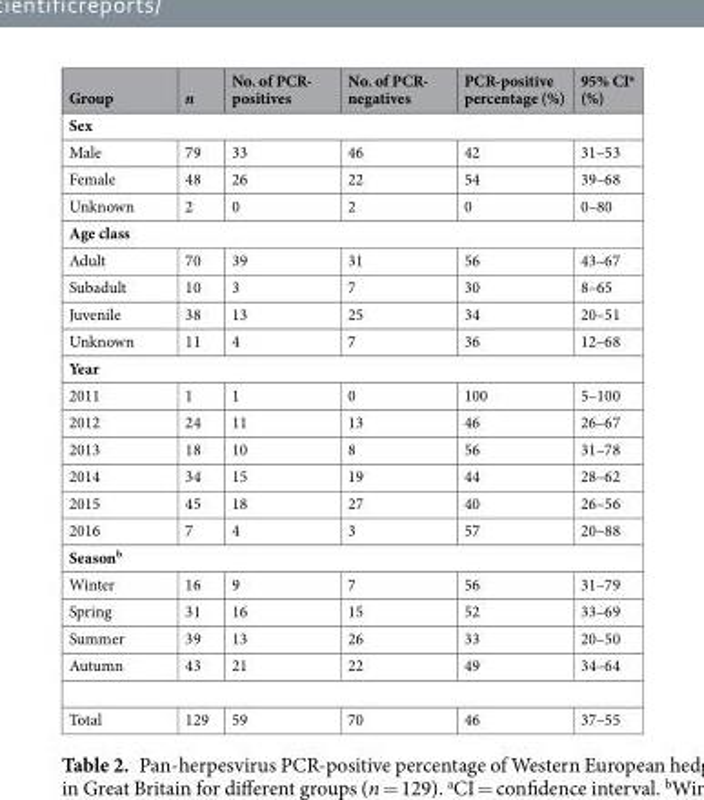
<table><thead><tr><td>Group</td><td>n</td><td>No. of PCR- positives</td><td>No. of PCR- negatives</td><td>PCR-positive percentage (%)</td><td>95% CI<sup>a</sup> (%)</td></tr></thead><tbody><tr><td colspan="6">Sex</td></tr><tr><td>Male</td><td>79</td><td>33</td><td>46</td><td>42</td><td>31–53</td></tr><tr><td>Female</td><td>48</td><td>26</td><td>22</td><td>54</td><td>39–68</td></tr><tr><td>Unknown</td><td>2</td><td>0</td><td>2</td><td>0</td><td>0–80</td></tr><tr><td colspan="6">Age class</td></tr><tr><td>Adult</td><td>70</td><td>39</td><td>31</td><td>56</td><td>43–67</td></tr><tr><td>Subadult</td><td>10</td><td>3</td><td>7</td><td>30</td><td>8–65</td></tr><tr><td>Juvenile</td><td>38</td><td>13</td><td>25</td><td>34</td><td>20–51</td></tr><tr><td>Unknown</td><td>11</td><td>4</td><td>7</td><td>36</td><td>12–68</td></tr><tr><td colspan="6">Year</td></tr><tr><td>2011</td><td>1</td><td>1</td><td>0</td><td>100</td><td>5–100</td></tr><tr><td>2012</td><td>24</td><td>11</td><td>13</td><td>46</td><td>26–67</td></tr><tr><td>2013</td><td>18</td><td>10</td><td>8</td><td>56</td><td>31–78</td></tr><tr><td>2014</td><td>34</td><td>15</td><td>19</td><td>44</td><td>28–62</td></tr><tr><td>2015</td><td>45</td><td>18</td><td>27</td><td>40</td><td>26–56</td></tr><tr><td>2016</td><td>7</td><td>4</td><td>3</td><td>57</td><td>20–88</td></tr><tr><td colspan="6">Season<sup>b</sup></td></tr><tr><td>Winter</td><td>16</td><td>9</td><td>7</td><td>56</td><td>31–79</td></tr><tr><td>Spring</td><td>31</td><td>16</td><td>15</td><td>52</td><td>33–69</td></tr><tr><td>Summer</td><td>39</td><td>13</td><td>26</td><td>33</td><td>20–50</td></tr><tr><td>Autumn</td><td>43</td><td>21</td><td>22</td><td>49</td><td>34–64</td></tr><tr><td>Total</td><td>129</td><td>59</td><td>70</td><td>46</td><td>37–55</td></tr></tbody></table>